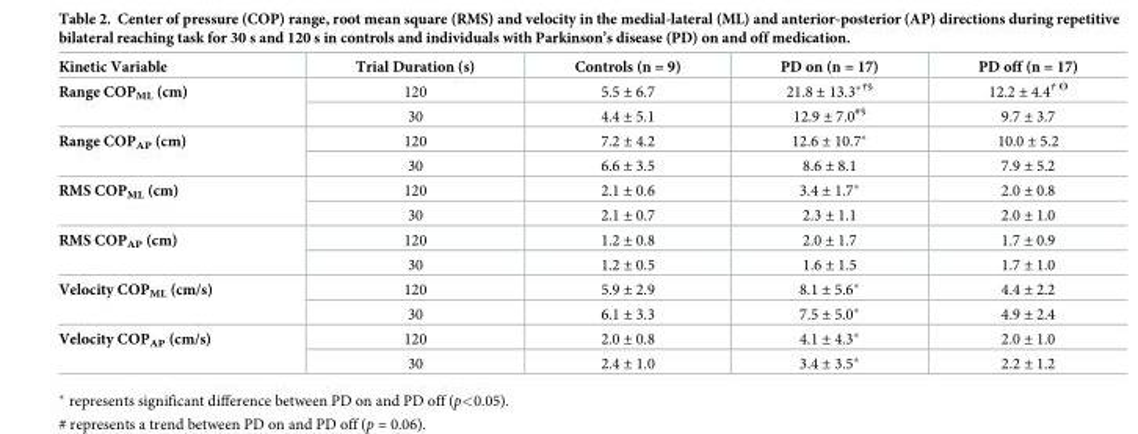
<table><thead><tr><td>Kinetic Variable</td><td>Trial Duration (s)</td><td>Controls (n = 9)</td><td>PD on (n = 17)</td><td>PD off (n = 17)</td></tr></thead><tbody><tr><td rowspan="2">Range COP<sub>ML</sub> (cm)</td><td>120</td><td>5.5 ± 6.7</td><td>21.8 ± 13.3*<sup>†§</sup></td><td>12.2 ± 4.4<sup>† ϴ</sup></td></tr><tr><td>30</td><td>4.4 ± 5.1</td><td>12.9 ± 7.0<sup>#§</sup></td><td>9.7 ± 3.7</td></tr><tr><td rowspan="2">Range COP<sub>AP</sub> (cm)</td><td>120</td><td>7.2 ± 4.2</td><td>12.6 ± 10.7*</td><td>10.0 ± 5.2</td></tr><tr><td>30</td><td>6.6 ± 3.5</td><td>8.6 ± 8.1</td><td>7.9 ± 5.2</td></tr><tr><td rowspan="2">RMS COP<sub>ML</sub> (cm)</td><td>120</td><td>2.1 ± 0.6</td><td>3.4 ± 1.7*</td><td>2.0 ± 0.8</td></tr><tr><td>30</td><td>2.1 ± 0.7</td><td>2.3 ± 1.1</td><td>2.0 ± 1.0</td></tr><tr><td rowspan="2">RMS COP<sub>AP</sub> (cm)</td><td>120</td><td>1.2 ± 0.8</td><td>2.0 ± 1.7</td><td>1.7 ± 0.9</td></tr><tr><td>30</td><td>1.2 ± 0.5</td><td>1.6 ± 1.5</td><td>1.7 ± 1.0</td></tr><tr><td rowspan="2">Velocity COP<sub>ML</sub> (cm/s)</td><td>120</td><td>5.9 ± 2.9</td><td>8.1 ± 5.6*</td><td>4.4 ± 2.2</td></tr><tr><td>30</td><td>6.1 ± 3.3</td><td>7.5 ± 5.0*</td><td>4.9 ± 2.4</td></tr><tr><td rowspan="2">Velocity COP<sub>AP</sub> (cm/s)</td><td>120</td><td>2.0 ± 0.8</td><td>4.1 ± 4.3*</td><td>2.0 ± 1.0</td></tr><tr><td>30</td><td>2.4 ± 1.0</td><td>3.4 ± 3.5*</td><td>2.2 ± 1.2</td></tr></tbody></table>